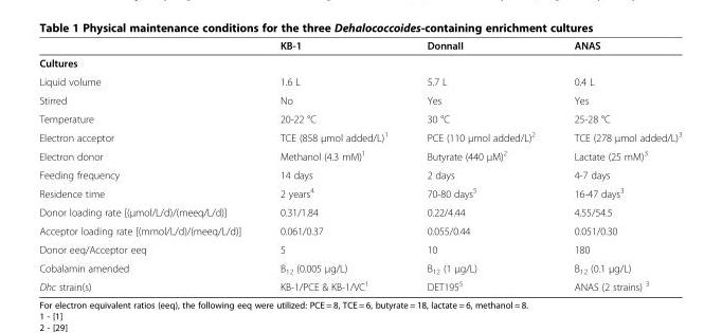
<table><thead><tr><td></td><td>KB-1</td><td>DonnaII</td><td>ANAS</td></tr></thead><tbody><tr><td colspan="4">Cultures</td></tr><tr><td>Liquid volume</td><td>1.6 L</td><td>5.7 L</td><td>0.4 L</td></tr><tr><td>Stirred</td><td>No</td><td>Yes</td><td>Yes</td></tr><tr><td>Temperature</td><td>20-22 °C</td><td>30 °C</td><td>25-28 °C</td></tr><tr><td>Electron acceptor</td><td>TCE (858 μmol added/L)<sup>1</sup></td><td>PCE (110 μmol added/L)<sup>2</sup></td><td>TCE (278 μmol added/L)<sup>3</sup></td></tr><tr><td>Electron donor</td><td>Methanol (4.3 mM)<sup>1</sup></td><td>Butyrate (440 μM)<sup>2</sup></td><td>Lactate (25 mM)<sup>3</sup></td></tr><tr><td>Feeding frequency</td><td>14 days</td><td>2 days</td><td>4-7 days</td></tr><tr><td>Residence time</td><td>2 years<sup>4</sup></td><td>70-80 days<sup>5</sup></td><td>16-47 days<sup>3</sup></td></tr><tr><td>Donor loading rate [(μmol/L/d)/(meeq/L/d)]</td><td>0.31/1.84</td><td>0.22/4.44</td><td>4.55/54.5</td></tr><tr><td>Acceptor loading rate [(mmol/L/d)/(meeq/L/d)]</td><td>0.061/0.37</td><td>0.055/0.44</td><td>0.051/0.30</td></tr><tr><td>Donor eeq/Acceptor eeq</td><td>5</td><td>10</td><td>180</td></tr><tr><td>Cobalamin amended</td><td>B<sub>12</sub> (0.005 μg/L)</td><td>B<sub>12</sub> (1 μg/L)</td><td>B<sub>12</sub> (0.1 μg/L)</td></tr><tr><td>Dhc strain(s)</td><td>KB-1/PCE &amp; KB-1/VC<sup>1</sup></td><td>DET195<sup>5</sup></td><td>ANAS (2 strains) <sup>3</sup></td></tr></tbody></table>